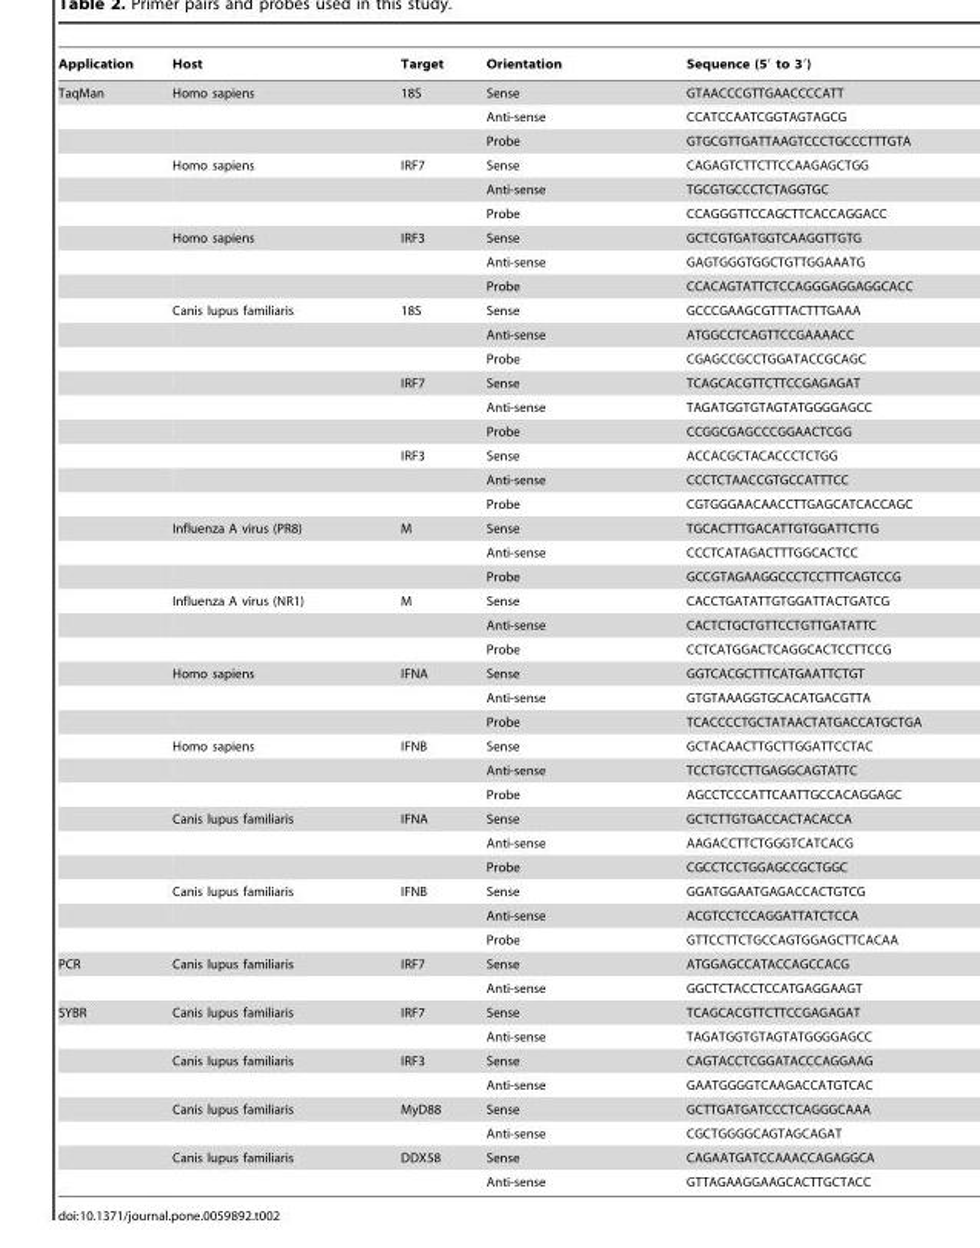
<table><thead><tr><td>Application</td><td>Host</td><td>Target</td><td>Orientation</td><td>Sequence (5′ to 3′)</td></tr></thead><tbody><tr><td rowspan="36">TaqMan</td><td>Homo sapiens</td><td>18S</td><td>Sense</td><td>GTAACCCGTTGAACCCCATT</td></tr><tr><td></td><td></td><td>Anti-sense</td><td>CCATCCAATCGGTAGTAGCG</td></tr><tr><td></td><td></td><td>Probe</td><td>GTGCGTTGATTAAGTCCCTGCCCTTTGTA</td></tr><tr><td>Homo sapiens</td><td>IRF7</td><td>Sense</td><td>CAGAGTCTTCTTCCAAGAGCTGG</td></tr><tr><td></td><td></td><td>Anti-sense</td><td>TGCGTGCCCTCTAGGTGC</td></tr><tr><td></td><td></td><td>Probe</td><td>CCAGGGTTCCAGCTTCACCAGGACC</td></tr><tr><td>Homo sapiens</td><td>IRF3</td><td>Sense</td><td>GCTCGTGATGGTCAAGGTTGTG</td></tr><tr><td></td><td></td><td>Anti-sense</td><td>GAGTGGGTGGCTGTTGGAAATG</td></tr><tr><td></td><td></td><td>Probe</td><td>CCACAGTATTCTCCAGGGAGGAGGCACC</td></tr><tr><td>Canis lupus familiaris</td><td>18S</td><td>Sense</td><td>GCCCGAAGCGTTTACTTTGAAA</td></tr><tr><td></td><td></td><td>Anti-sense</td><td>ATGGCCTCAGTTCCGAAAACC</td></tr><tr><td></td><td></td><td>Probe</td><td>CGAGCCGCCTGGATACCGCAGC</td></tr><tr><td></td><td>IRF7</td><td>Sense</td><td>TCAGCACGTTCTTCCGAGAGAT</td></tr><tr><td></td><td></td><td>Anti-sense</td><td>TAGATGGTGTAGTATGGGGAGCC</td></tr><tr><td></td><td></td><td>Probe</td><td>CCGGCGAGCCCGGAACTCGG</td></tr><tr><td></td><td>IRF3</td><td>Sense</td><td>ACCACGCTACACCCTCTGG</td></tr><tr><td></td><td></td><td>Anti-sense</td><td>CCCTCTAACCGTGCCATTTCC</td></tr><tr><td></td><td></td><td>Probe</td><td>CGTGGGAACAACCTTGAGCATCACCAGC</td></tr><tr><td>Influenza A virus (PR8)</td><td>M</td><td>Sense</td><td>TGCACTTTGACATTGTGGATTCTTG</td></tr><tr><td></td><td></td><td>Anti-sense</td><td>CCCTCATAGACTTTGGCACTCC</td></tr><tr><td></td><td></td><td>Probe</td><td>GCCGTAGAAGGCCCTCCTTTCAGTCCG</td></tr><tr><td>Influenza A virus (NR1)</td><td>M</td><td>Sense</td><td>CACCTGATATTGTGGATTACTGATCG</td></tr><tr><td></td><td></td><td>Anti-sense</td><td>CACTCTGCTGTTCCTGTTGATATTC</td></tr><tr><td></td><td></td><td>Probe</td><td>CCTCATGGACTCAGGCACTCCTTCCG</td></tr><tr><td>Homo sapiens</td><td>IFNA</td><td>Sense</td><td>GGTCACGCTTTCATGAATTCTGT</td></tr><tr><td></td><td></td><td>Anti-sense</td><td>GTGTAAAGGTGCACATGACGTTA</td></tr><tr><td></td><td></td><td>Probe</td><td>TCACCCCTGCTATAACTATGACCATGCTGA</td></tr><tr><td>Homo sapiens</td><td>IFNB</td><td>Sense</td><td>GCTACAACTTGCTTGGATTCCTAC</td></tr><tr><td></td><td></td><td>Anti-sense</td><td>TCCTGTCCTTGAGGCAGTATTC</td></tr><tr><td></td><td></td><td>Probe</td><td>AGCCTCCCATTCAATTGCCACAGGAGC</td></tr><tr><td>Canis lupus familiaris</td><td>IFNA</td><td>Sense</td><td>GCTCTTGTGACCACTACACCA</td></tr><tr><td></td><td></td><td>Anti-sense</td><td>AAGACCTTCTGGGTCATCACG</td></tr><tr><td></td><td></td><td>Probe</td><td>CGCCTCCTGGAGCCGCTGGC</td></tr><tr><td>Canis lupus familiaris</td><td>IFNB</td><td>Sense</td><td>GGATGGAATGAGACCACTGTCG</td></tr><tr><td></td><td></td><td>Anti-sense</td><td>ACGTCCTCCAGGATTATCTCCA</td></tr><tr><td></td><td></td><td>Probe</td><td>GTTCCTTCTGCCAGTGGAGCTTCACAA</td></tr><tr><td rowspan="2">PCR</td><td>Canis lupus familiaris</td><td>IRF7</td><td>Sense</td><td>ATGGAGCCATACCAGCCACG</td></tr><tr><td></td><td></td><td>Anti-sense</td><td>GGCTCTACCTCCATGAGGAAGT</td></tr><tr><td rowspan="8">SYBR</td><td>Canis lupus familiaris</td><td>IRF7</td><td>Sense</td><td>TCAGCACGTTCTTCCGAGAGAT</td></tr><tr><td></td><td></td><td>Anti-sense</td><td>TAGATGGTGTAGTATGGGGAGCC</td></tr><tr><td>Canis lupus familiaris</td><td>IRF3</td><td>Sense</td><td>CAGTACCTCGGATACCCAGGAAG</td></tr><tr><td></td><td></td><td>Anti-sense</td><td>GAATGGGGTCAAGACCATGTCAC</td></tr><tr><td>Canis lupus familiaris</td><td>MyD88</td><td>Sense</td><td>GCTTGATGATCCCTCAGGGCAAA</td></tr><tr><td></td><td></td><td>Anti-sense</td><td>CGCTGGGGCAGTAGCAGAT</td></tr><tr><td>Canis lupus familiaris</td><td>DDX58</td><td>Sense</td><td>CAGAATGATCCAAACCAGAGGCA</td></tr><tr><td></td><td></td><td>Anti-sense</td><td>GTTAGAAGGAAGCACTTGCTACC</td></tr></tbody></table>